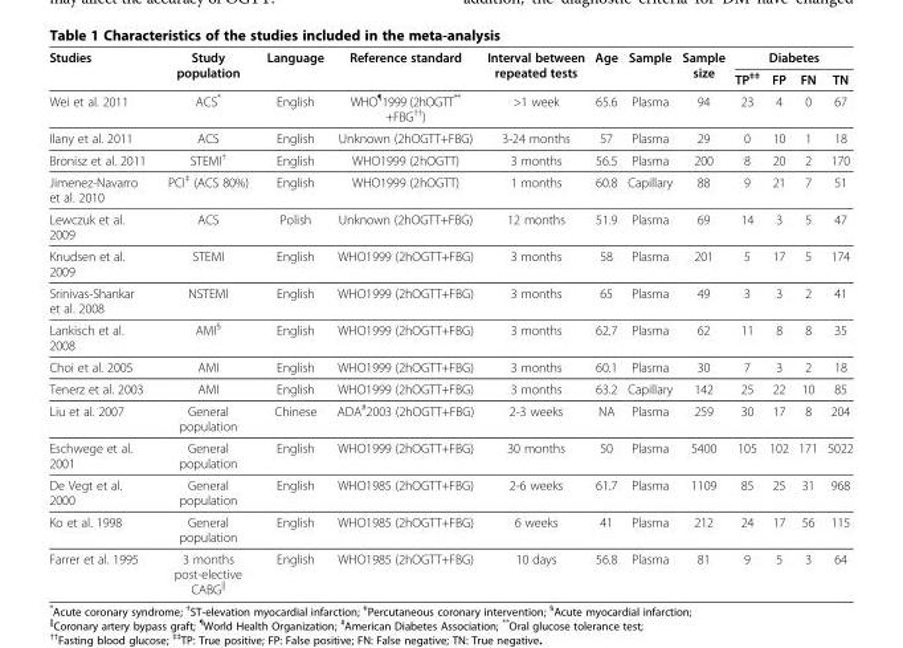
<table><thead><tr><td rowspan="2">Studies</td><td rowspan="2">Study population</td><td rowspan="2">Language</td><td rowspan="2">Reference standard</td><td rowspan="2">Interval between repeated tests</td><td rowspan="2">Age</td><td rowspan="2">Sample</td><td rowspan="2">Sample size</td><td colspan="4">Diabetes</td></tr><tr><td>TP<sup>‡‡</sup></td><td>FP</td><td>FN</td><td>TN</td></tr></thead><tbody><tr><td>Wei et al. 2011</td><td>ACS*</td><td>English</td><td>WHO<sup>¶</sup>1999 (2hOGTT** +FBG<sup>††</sup>)</td><td>&gt;1 week</td><td>65.6</td><td>Plasma</td><td>94</td><td>23</td><td>4</td><td>0</td><td>67</td></tr><tr><td>Ilany et al. 2011</td><td>ACS</td><td>English</td><td>Unknown (2hOGTT+FBG)</td><td>3-24 months</td><td>57</td><td>Plasma</td><td>29</td><td>0</td><td>10</td><td>1</td><td>18</td></tr><tr><td>Bronisz et al. 2011</td><td>STEMI<sup>†</sup></td><td>English</td><td>WHO1999 (2hOGTT)</td><td>3 months</td><td>56.5</td><td>Plasma</td><td>200</td><td>8</td><td>20</td><td>2</td><td>170</td></tr><tr><td>Jimenez-Navarro et al. 2010</td><td>PCI<sup>‡</sup> (ACS 80%)</td><td>English</td><td>WHO1999 (2hOGTT)</td><td>1 months</td><td>60.8</td><td>Capillary</td><td>88</td><td>9</td><td>21</td><td>7</td><td>51</td></tr><tr><td>Lewczuk et al. 2009</td><td>ACS</td><td>Polish</td><td>Unknown (2hOGTT+FBG)</td><td>12 months</td><td>51.9</td><td>Plasma</td><td>69</td><td>14</td><td>3</td><td>5</td><td>47</td></tr><tr><td>Knudsen et al. 2009</td><td>STEMI</td><td>English</td><td>WHO1999 (2hOGTT+FBG)</td><td>3 months</td><td>58</td><td>Plasma</td><td>201</td><td>5</td><td>17</td><td>5</td><td>174</td></tr><tr><td>Srinivas-Shankar et al. 2008</td><td>NSTEMI</td><td>English</td><td>WHO1999 (2hOGTT+FBG)</td><td>3 months</td><td>65</td><td>Plasma</td><td>49</td><td>3</td><td>3</td><td>2</td><td>41</td></tr><tr><td>Lankisch et al. 2008</td><td>AMI<sup>§</sup></td><td>English</td><td>WHO1999 (2hOGTT+FBG)</td><td>3 months</td><td>62.7</td><td>Plasma</td><td>62</td><td>11</td><td>8</td><td>8</td><td>35</td></tr><tr><td>Choi et al. 2005</td><td>AMI</td><td>English</td><td>WHO1999 (2hOGTT+FBG)</td><td>3 months</td><td>60.1</td><td>Plasma</td><td>30</td><td>7</td><td>3</td><td>2</td><td>18</td></tr><tr><td>Tenerz et al. 2003</td><td>AMI</td><td>English</td><td>WHO1999 (2hOGTT+FBG)</td><td>3 months</td><td>63.2</td><td>Capillary</td><td>142</td><td>25</td><td>22</td><td>10</td><td>85</td></tr><tr><td>Liu et al. 2007</td><td>General population</td><td>Chinese</td><td>ADA<sup>#</sup>2003 (2hOGTT+FBG)</td><td>2-3 weeks</td><td>NA</td><td>Plasma</td><td>259</td><td>30</td><td>17</td><td>8</td><td>204</td></tr><tr><td>Eschwege et al. 2001</td><td>General population</td><td>English</td><td>WHO1999 (2hOGTT+FBG)</td><td>30 months</td><td>50</td><td>Plasma</td><td>5400</td><td>105</td><td>102</td><td>171</td><td>5022</td></tr><tr><td>De Vegt et al. 2000</td><td>General population</td><td>English</td><td>WHO1985 (2hOGTT+FBG)</td><td>2-6 weeks</td><td>61.7</td><td>Plasma</td><td>1109</td><td>85</td><td>25</td><td>31</td><td>968</td></tr><tr><td>Ko et al. 1998</td><td>General population</td><td>English</td><td>WHO1985 (2hOGTT+FBG)</td><td>6 weeks</td><td>41</td><td>Plasma</td><td>212</td><td>24</td><td>17</td><td>56</td><td>115</td></tr><tr><td>Farrer et al. 1995</td><td>3 months post-elective CABG<sup>||</sup></td><td>English</td><td>WHO1985 (2hOGTT+FBG)</td><td>10 days</td><td>56.8</td><td>Plasma</td><td>81</td><td>9</td><td>5</td><td>3</td><td>64</td></tr></tbody></table>